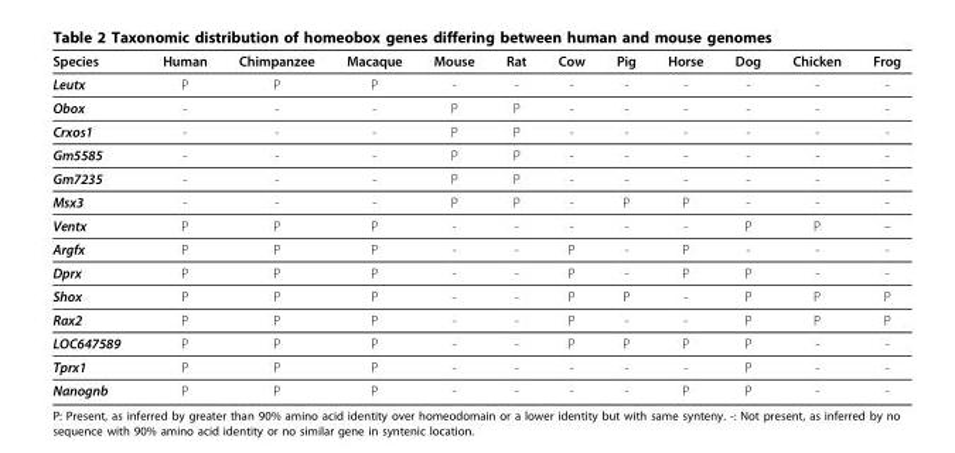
<table><thead><tr><td>Species</td><td>Human</td><td>Chimpanzee</td><td>Macaque</td><td>Mouse</td><td>Rat</td><td>Cow</td><td>Pig</td><td>Horse</td><td>Dog</td><td>Chicken</td><td>Frog</td></tr></thead><tbody><tr><td>Leutx</td><td>P</td><td>P</td><td>P</td><td>-</td><td>-</td><td>-</td><td>-</td><td>-</td><td>-</td><td>-</td><td>-</td></tr><tr><td>Obox</td><td>-</td><td>-</td><td>-</td><td>P</td><td>P</td><td>-</td><td>-</td><td>-</td><td>-</td><td>-</td><td>-</td></tr><tr><td>Crxos1</td><td>-</td><td>-</td><td>-</td><td>P</td><td>P</td><td>-</td><td>-</td><td>-</td><td>-</td><td>-</td><td>-</td></tr><tr><td>Gm5585</td><td>-</td><td>-</td><td>-</td><td>P</td><td>P</td><td>-</td><td>-</td><td>-</td><td>-</td><td>-</td><td>-</td></tr><tr><td>Gm7235</td><td>-</td><td>-</td><td>-</td><td>P</td><td>P</td><td>-</td><td>-</td><td>-</td><td>-</td><td>-</td><td>-</td></tr><tr><td>Msx3</td><td>-</td><td>-</td><td>-</td><td>P</td><td>P</td><td>-</td><td>P</td><td>P</td><td>-</td><td>-</td><td>-</td></tr><tr><td>Ventx</td><td>P</td><td>P</td><td>P</td><td>-</td><td>-</td><td>-</td><td>-</td><td>-</td><td>P</td><td>P</td><td>–</td></tr><tr><td>Argfx</td><td>P</td><td>P</td><td>P</td><td>-</td><td>-</td><td>P</td><td>-</td><td>P</td><td>-</td><td>-</td><td>-</td></tr><tr><td>Dprx</td><td>P</td><td>P</td><td>P</td><td>-</td><td>-</td><td>P</td><td>-</td><td>P</td><td>P</td><td>-</td><td>-</td></tr><tr><td>Shox</td><td>P</td><td>P</td><td>P</td><td>-</td><td>-</td><td>P</td><td>P</td><td>-</td><td>P</td><td>P</td><td>P</td></tr><tr><td>Rax2</td><td>P</td><td>P</td><td>P</td><td>-</td><td>-</td><td>P</td><td>-</td><td>-</td><td>P</td><td>P</td><td>P</td></tr><tr><td>LOC647589</td><td>P</td><td>P</td><td>P</td><td>-</td><td>-</td><td>P</td><td>P</td><td>P</td><td>P</td><td>-</td><td>-</td></tr><tr><td>Tprx1</td><td>P</td><td>P</td><td>P</td><td>-</td><td>-</td><td>-</td><td>-</td><td>-</td><td>P</td><td>-</td><td>-</td></tr><tr><td>Nanognb</td><td>P</td><td>P</td><td>P</td><td>-</td><td>-</td><td>-</td><td>-</td><td>P</td><td>P</td><td>-</td><td>-</td></tr></tbody></table>